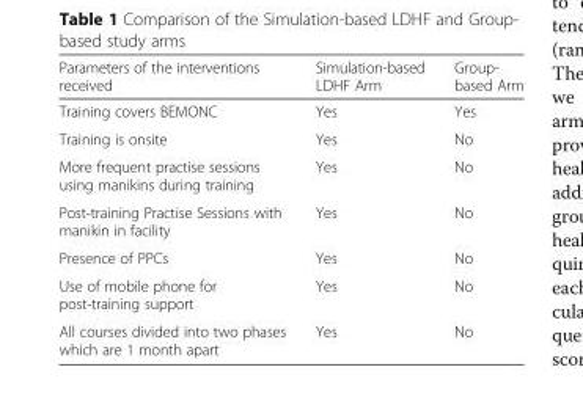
<table><thead><tr><td>Parameters of the interventions received</td><td>Simulation-based LDHF Arm</td><td>Group- based Arm</td></tr></thead><tbody><tr><td>Training covers BEMONC</td><td>Yes</td><td>Yes</td></tr><tr><td>Training is onsite</td><td>Yes</td><td>No</td></tr><tr><td>More frequent practise sessions using manikins during training</td><td>Yes</td><td>No</td></tr><tr><td>Post-training Practise Sessions with manikin in facility</td><td>Yes</td><td>No</td></tr><tr><td>Presence of PPCs</td><td>Yes</td><td>No</td></tr><tr><td>Use of mobile phone for post-training support</td><td>Yes</td><td>No</td></tr><tr><td>All courses divided into two phases which are 1 month apart</td><td>Yes</td><td>No</td></tr></tbody></table>